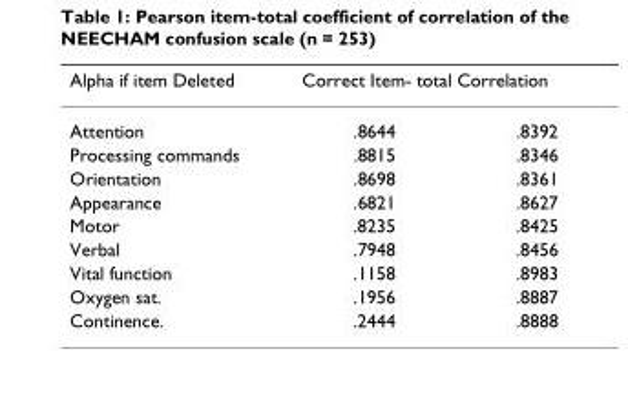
<table><thead><tr><td rowspan="2">Alpha if item Deleted Attention</td><td colspan="2">Correct Item- total Correlation</td></tr><tr><td>.8644</td><td>.8392</td></tr></thead><tbody><tr><td>Processing commands</td><td>.8815</td><td>.8346</td></tr><tr><td>Orientation</td><td>.8698</td><td>.8361</td></tr><tr><td>Appearance</td><td>.6821</td><td>.8627</td></tr><tr><td>Motor</td><td>.8235</td><td>.8425</td></tr><tr><td>Verbal</td><td>.7948</td><td>.8456</td></tr><tr><td>Vital function</td><td>.1158</td><td>.8983</td></tr><tr><td>Oxygen sat.</td><td>.1956</td><td>.8887</td></tr><tr><td>Continence.</td><td>.2444</td><td>.8888</td></tr></tbody></table>